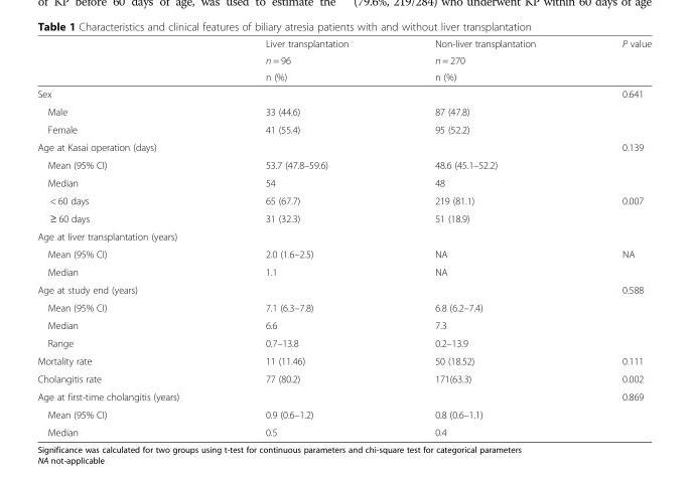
<table><thead><tr><td rowspan="3"></td><td rowspan="3">Liver transplantation n = 96 n (%)</td><td rowspan="3">Non-liver transplantation n = 270 n (%)</td><td rowspan="3">P value</td></tr><tr></tr><tr></tr></thead><tbody><tr><td>Sex</td><td></td><td></td><td>0.641</td></tr><tr><td>Male</td><td>33 (44.6)</td><td>87 (47.8)</td><td></td></tr><tr><td>Female</td><td>41 (55.4)</td><td>95 (52.2)</td><td></td></tr><tr><td>Age at Kasai operation (days)</td><td></td><td></td><td>0.139</td></tr><tr><td>Mean (95% CI)</td><td>53.7 (47.8–59.6)</td><td>48.6 (45.1–52.2)</td><td></td></tr><tr><td>Median</td><td>54</td><td>48</td><td></td></tr><tr><td>&lt; 60 days</td><td>65 (67.7)</td><td>219 (81.1)</td><td>0.007</td></tr><tr><td>≥ 60 days</td><td>31 (32.3)</td><td>51 (18.9)</td><td></td></tr><tr><td colspan="4">Age at liver transplantation (years)</td></tr><tr><td>Mean (95% CI)</td><td>2.0 (1.6–2.5)</td><td>NA</td><td>NA</td></tr><tr><td>Median</td><td>1.1</td><td>NA</td><td></td></tr><tr><td>Age at study end (years)</td><td></td><td></td><td>0.588</td></tr><tr><td>Mean (95% CI)</td><td>7.1 (6.3–7.8)</td><td>6.8 (6.2–7.4)</td><td></td></tr><tr><td>Median</td><td>6.6</td><td>7.3</td><td></td></tr><tr><td>Range</td><td>0.7–13.8</td><td>0.2–13.9</td><td></td></tr><tr><td>Mortality rate</td><td>11 (11.46)</td><td>50 (18.52)</td><td>0.111</td></tr><tr><td>Cholangitis rate</td><td>77 (80.2)</td><td>171(63.3)</td><td>0.002</td></tr><tr><td>Age at first-time cholangitis (years)</td><td></td><td></td><td>0.869</td></tr><tr><td>Mean (95% CI)</td><td>0.9 (0.6–1.2)</td><td>0.8 (0.6–1.1)</td><td></td></tr><tr><td>Median</td><td>0.5</td><td>0.4</td><td></td></tr></tbody></table>